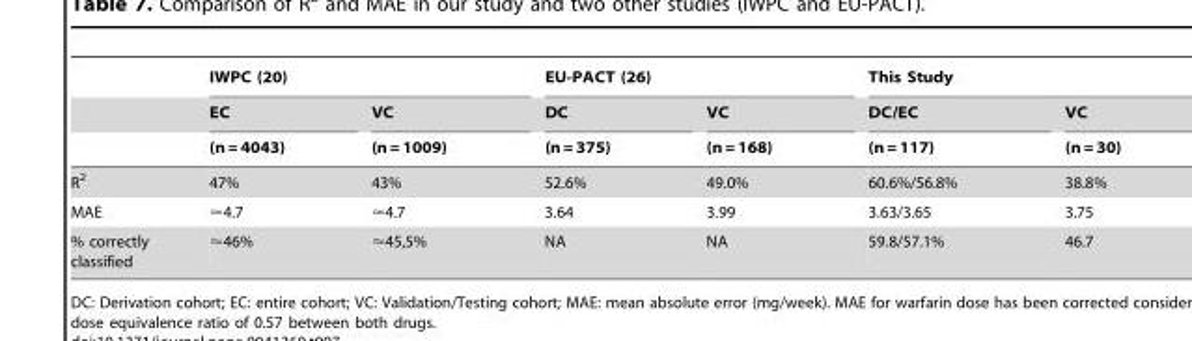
<table><thead><tr><td rowspan="3"></td><td colspan="2">IWPC (20)</td><td colspan="2">EU-PACT (26)</td><td colspan="2">This Study</td></tr><tr><td rowspan="2">EC (n = 4043)</td><td rowspan="2">VC (n = 1009)</td><td rowspan="2">DC (n = 375)</td><td rowspan="2">VC (n = 168)</td><td rowspan="2">DC/EC (n = 117)</td><td rowspan="2">VC (n = 30)</td></tr><tr></tr></thead><tbody><tr><td>R<sup>2</sup></td><td>47%</td><td>43%</td><td>52.6%</td><td>49.0%</td><td>60.6%/56.8%</td><td>38.8%</td></tr><tr><td>MAE</td><td>&lt;4.7</td><td>&lt;4.7</td><td>3.64</td><td>3.99</td><td>3.63/3.65</td><td>3.75</td></tr><tr><td>% correctly classified</td><td>&lt;46%</td><td>&lt;45,5%</td><td>NA</td><td>NA</td><td>59.8/57.1%</td><td>46.7</td></tr></tbody></table>